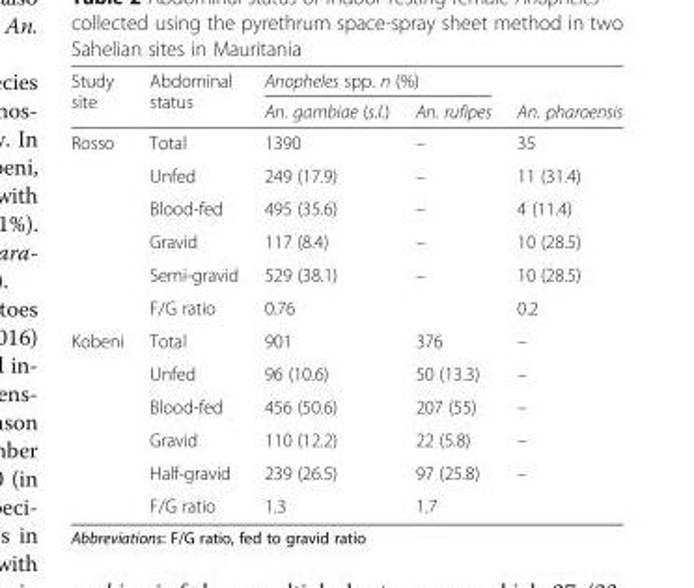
<table><thead><tr><td rowspan="2">Study site</td><td rowspan="2">Abdominal status</td><td colspan="2">Anopheles spp. n (%)</td><td rowspan="2">An. pharoensis</td></tr><tr><td>An. gambiae (s.l.)</td><td>An. rufipes</td></tr></thead><tbody><tr><td rowspan="6">Rosso</td><td>Total</td><td>1390</td><td>–</td><td>35</td></tr><tr><td>Unfed</td><td>249 (17.9)</td><td>–</td><td>11 (31.4)</td></tr><tr><td>Blood-fed</td><td>495 (35.6)</td><td>–</td><td>4 (11.4)</td></tr><tr><td>Gravid</td><td>117 (8.4)</td><td>–</td><td>10 (28.5)</td></tr><tr><td>Semi-gravid</td><td>529 (38.1)</td><td>–</td><td>10 (28.5)</td></tr><tr><td>F/G ratio</td><td>0.76</td><td></td><td>0.2</td></tr><tr><td rowspan="6">Kobeni</td><td>Total</td><td>901</td><td>376</td><td>–</td></tr><tr><td>Unfed</td><td>96 (10.6)</td><td>50 (13.3)</td><td>–</td></tr><tr><td>Blood-fed</td><td>456 (50.6)</td><td>207 (55)</td><td>–</td></tr><tr><td>Gravid</td><td>110 (12.2)</td><td>22 (5.8)</td><td>–</td></tr><tr><td>Half-gravid</td><td>239 (26.5)</td><td>97 (25.8)</td><td>–</td></tr><tr><td>F/G ratio</td><td>1.3</td><td>1.7</td><td></td></tr></tbody></table>